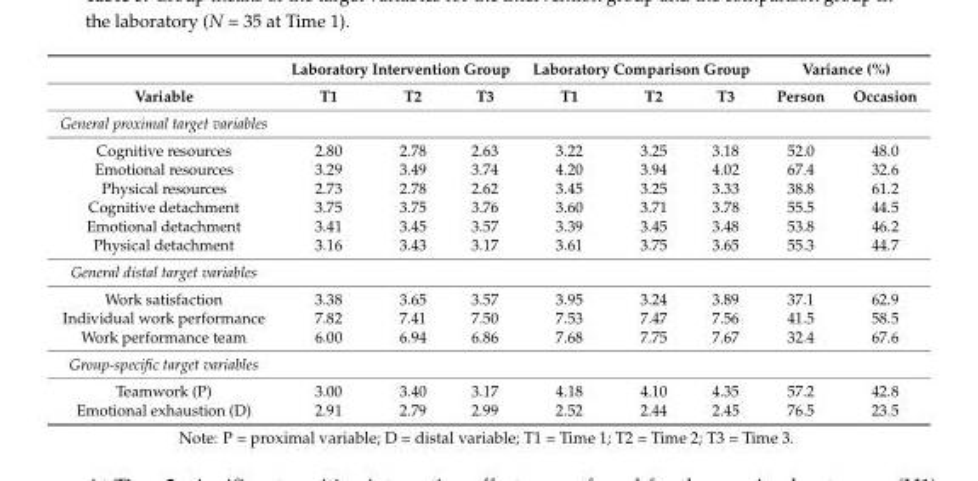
<table><thead><tr><td rowspan="2">Variable</td><td colspan="3">Laboratory Intervention Group</td><td colspan="3">Laboratory Comparison Group</td><td colspan="2">Variance (%)</td></tr><tr><td>T1</td><td>T2</td><td>T3</td><td>T1</td><td>T2</td><td>T3</td><td>Person</td><td>Occasion</td></tr></thead><tbody><tr><td colspan="9">General proximal target variables</td></tr><tr><td>Cognitive resources</td><td>2.80</td><td>2.78</td><td>2.63</td><td>3.22</td><td>3.25</td><td>3.18</td><td>52.0</td><td>48.0</td></tr><tr><td>Emotional resources</td><td>3.29</td><td>3.49</td><td>3.74</td><td>4.20</td><td>3.94</td><td>4.02</td><td>67.4</td><td>32.6</td></tr><tr><td>Physical resources</td><td>2.73</td><td>2.78</td><td>2.62</td><td>3.45</td><td>3.25</td><td>3.33</td><td>38.8</td><td>61.2</td></tr><tr><td>Cognitive detachment</td><td>3.75</td><td>3.75</td><td>3.76</td><td>3.60</td><td>3.71</td><td>3.78</td><td>55.5</td><td>44.5</td></tr><tr><td>Emotional detachment</td><td>3.41</td><td>3.45</td><td>3.57</td><td>3.39</td><td>3.45</td><td>3.48</td><td>53.8</td><td>46.2</td></tr><tr><td>Physical detachment</td><td>3.16</td><td>3.43</td><td>3.17</td><td>3.61</td><td>3.75</td><td>3.65</td><td>55.3</td><td>44.7</td></tr><tr><td colspan="9">General distal target variables</td></tr><tr><td>Work satisfaction</td><td>3.38</td><td>3.65</td><td>3.57</td><td>3.95</td><td>3.24</td><td>3.89</td><td>37.1</td><td>62.9</td></tr><tr><td>Individual work performance</td><td>7.82</td><td>7.41</td><td>7.50</td><td>7.53</td><td>7.47</td><td>7.56</td><td>41.5</td><td>58.5</td></tr><tr><td>Work performance team</td><td>6.00</td><td>6.94</td><td>6.86</td><td>7.68</td><td>7.75</td><td>7.67</td><td>32.4</td><td>67.6</td></tr><tr><td colspan="9">Group-specific target variables</td></tr><tr><td>Teamwork (P)</td><td>3.00</td><td>3.40</td><td>3.17</td><td>4.18</td><td>4.10</td><td>4.35</td><td>57.2</td><td>42.8</td></tr><tr><td>Emotional exhaustion (D)</td><td>2.91</td><td>2.79</td><td>2.99</td><td>2.52</td><td>2.44</td><td>2.45</td><td>76.5</td><td>23.5</td></tr></tbody></table>